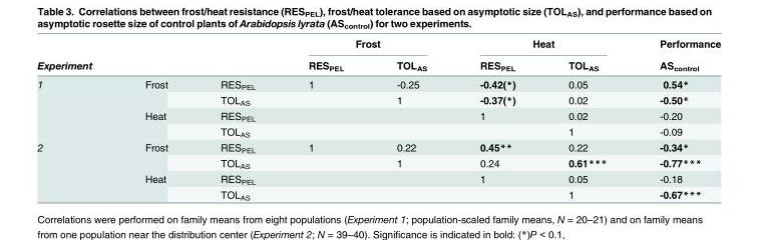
<table><thead><tr><td rowspan="2">Experiment</td><td rowspan="2"></td><td rowspan="2"></td><td colspan="2">Frost</td><td colspan="2">Heat</td><td rowspan="2">Performance AS<sub>control</sub></td></tr><tr><td>RES<sub>PEL</sub></td><td>TOL<sub>AS</sub></td><td>RES<sub>PEL</sub></td><td>TOL<sub>AS</sub></td></tr></thead><tbody><tr><td rowspan="4">1</td><td rowspan="2">Frost</td><td>RES<sub>PEL</sub></td><td>1</td><td>-0.25</td><td>-0.42(*)</td><td>0.05</td><td>0.54*</td></tr><tr><td>TOL<sub>AS</sub></td><td></td><td>1</td><td>-0.37(*)</td><td>0.02</td><td>-0.50*</td></tr><tr><td rowspan="2">Heat</td><td>RES<sub>PEL</sub></td><td></td><td></td><td>1</td><td>0.02</td><td>-0.20</td></tr><tr><td>TOL<sub>AS</sub></td><td></td><td></td><td></td><td>1</td><td>-0.09</td></tr><tr><td rowspan="4">2</td><td rowspan="2">Frost</td><td>RES<sub>PEL</sub></td><td>1</td><td>0.22</td><td>0.45**</td><td>0.22</td><td>-0.34*</td></tr><tr><td>TOL<sub>AS</sub></td><td></td><td>1</td><td>0.24</td><td>0.61***</td><td>-0.77***</td></tr><tr><td rowspan="2">Heat</td><td>RES<sub>PEL</sub></td><td></td><td></td><td>1</td><td>0.05</td><td>-0.18</td></tr><tr><td>TOL<sub>AS</sub></td><td></td><td></td><td></td><td>1</td><td>-0.67***</td></tr></tbody></table>